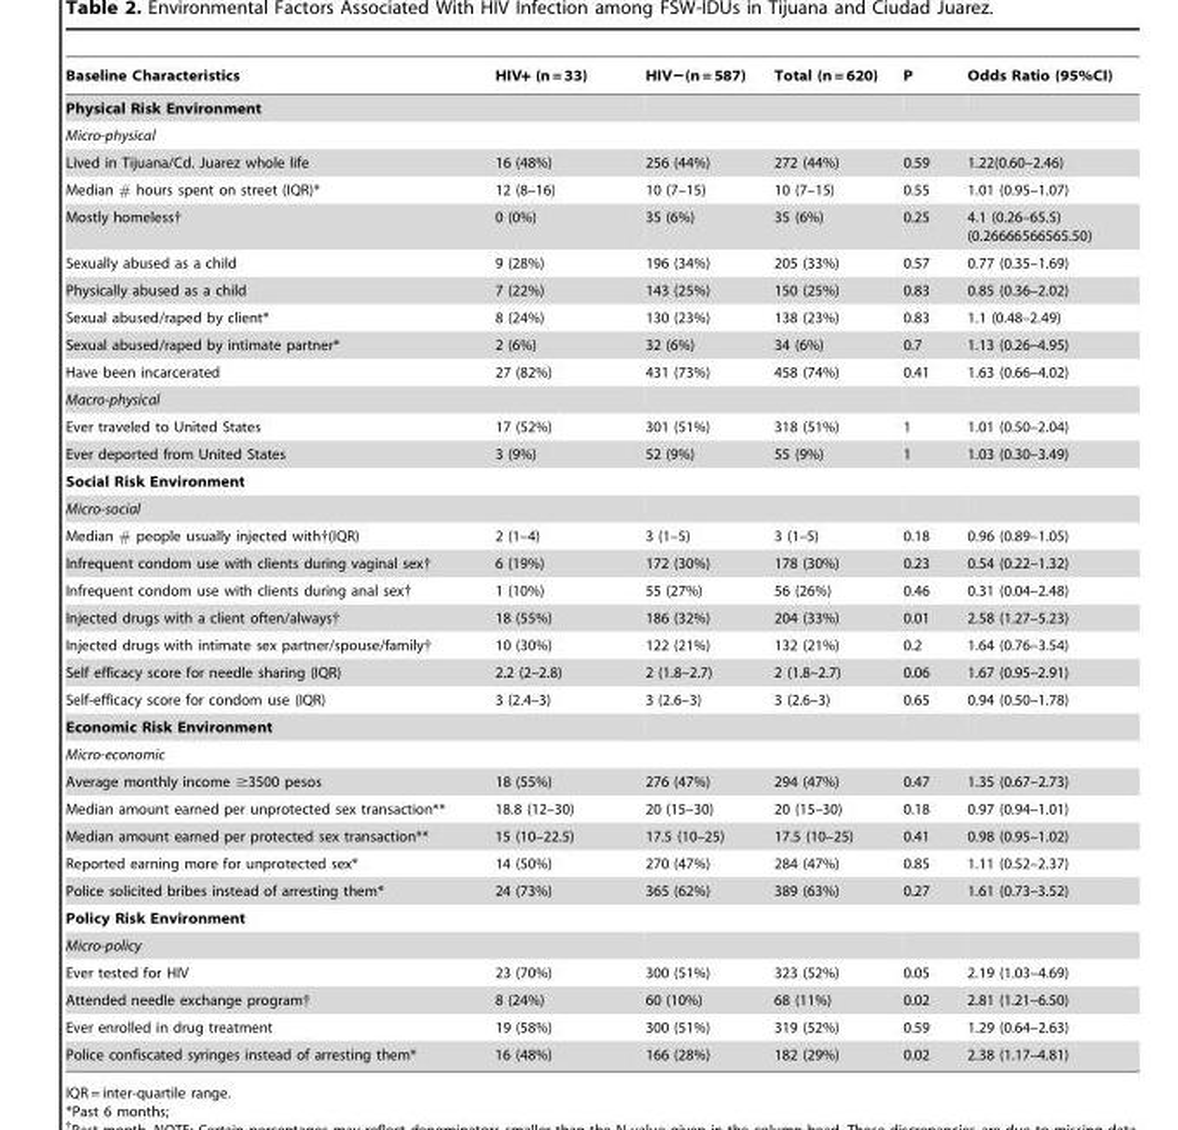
<table><thead><tr><td>Baseline Characteristics</td><td>HIV+ (n = 33)</td><td>HIV−(n = 587)</td><td>Total (n = 620)</td><td>P</td><td>Odds Ratio (95%CI)</td></tr></thead><tbody><tr><td colspan="6">Physical Risk Environment</td></tr><tr><td colspan="6">Micro-physical</td></tr><tr><td>Lived in Tijuana/Cd. Juarez whole life</td><td>16 (48%)</td><td>256 (44%)</td><td>272 (44%)</td><td>0.59</td><td>1.22(0.60–2.46)</td></tr><tr><td>Median # hours spent on street (IQR)*</td><td>12 (8–16)</td><td>10 (7–15)</td><td>10 (7–15)</td><td>0.55</td><td>1.01 (0.95–1.07)</td></tr><tr><td>Mostly homeless†</td><td>0 (0%)</td><td>35 (6%)</td><td>35 (6%)</td><td>0.25</td><td>4.1 (0.26–65.5) (0.26666566565.50)</td></tr><tr><td>Sexually abused as a child</td><td>9 (28%)</td><td>196 (34%)</td><td>205 (33%)</td><td>0.57</td><td>0.77 (0.35–1.69)</td></tr><tr><td>Physically abused as a child</td><td>7 (22%)</td><td>143 (25%)</td><td>150 (25%)</td><td>0.83</td><td>0.85 (0.36–2.02)</td></tr><tr><td>Sexual abused/raped by client*</td><td>8 (24%)</td><td>130 (23%)</td><td>138 (23%)</td><td>0.83</td><td>1.1 (0.48–2.49)</td></tr><tr><td>Sexual abused/raped by intimate partner*</td><td>2 (6%)</td><td>32 (6%)</td><td>34 (6%)</td><td>0.7</td><td>1.13 (0.26–4.95)</td></tr><tr><td>Have been incarcerated</td><td>27 (82%)</td><td>431 (73%)</td><td>458 (74%)</td><td>0.41</td><td>1.63 (0.66–4.02)</td></tr><tr><td colspan="6">Macro-physical</td></tr><tr><td>Ever traveled to United States</td><td>17 (52%)</td><td>301 (51%)</td><td>318 (51%)</td><td>1</td><td>1.01 (0.50–2.04)</td></tr><tr><td>Ever deported from United States</td><td>3 (9%)</td><td>52 (9%)</td><td>55 (9%)</td><td>1</td><td>1.03 (0.30–3.49)</td></tr><tr><td colspan="6">Social Risk Environment</td></tr><tr><td colspan="6">Micro-social</td></tr><tr><td>Median # people usually injected with†(IQR)</td><td>2 (1–4)</td><td>3 (1–5)</td><td>3 (1–5)</td><td>0.18</td><td>0.96 (0.89–1.05)</td></tr><tr><td>Infrequent condom use with clients during vaginal sex†</td><td>6 (19%)</td><td>172 (30%)</td><td>178 (30%)</td><td>0.23</td><td>0.54 (0.22–1.32)</td></tr><tr><td>Infrequent condom use with clients during anal sex†</td><td>1 (10%)</td><td>55 (27%)</td><td>56 (26%)</td><td>0.46</td><td>0.31 (0.04–2.48)</td></tr><tr><td>Injected drugs with a client often/always†</td><td>18 (55%)</td><td>186 (32%)</td><td>204 (33%)</td><td>0.01</td><td>2.58 (1.27–5.23)</td></tr><tr><td>Injected drugs with intimate sex partner/spouse/family†</td><td>10 (30%)</td><td>122 (21%)</td><td>132 (21%)</td><td>0.2</td><td>1.64 (0.76–3.54)</td></tr><tr><td>Self efficacy score for needle sharing (IQR)</td><td>2.2 (2–2.8)</td><td>2 (1.8–2.7)</td><td>2 (1.8–2.7)</td><td>0.06</td><td>1.67 (0.95–2.91)</td></tr><tr><td>Self-efficacy score for condom use (IQR)</td><td>3 (2.4–3)</td><td>3 (2.6–3)</td><td>3 (2.6–3)</td><td>0.65</td><td>0.94 (0.50–1.78)</td></tr><tr><td colspan="6">Economic Risk Environment</td></tr><tr><td colspan="6">Micro-economic</td></tr><tr><td>Average monthly income ≥3500 pesos</td><td>18 (55%)</td><td>276 (47%)</td><td>294 (47%)</td><td>0.47</td><td>1.35 (0.67–2.73)</td></tr><tr><td>Median amount earned per unprotected sex transaction**</td><td>18.8 (12–30)</td><td>20 (15–30)</td><td>20 (15–30)</td><td>0.18</td><td>0.97 (0.94–1.01)</td></tr><tr><td>Median amount earned per protected sex transaction**</td><td>15 (10–22.5)</td><td>17.5 (10–25)</td><td>17.5 (10–25)</td><td>0.41</td><td>0.98 (0.95–1.02)</td></tr><tr><td>Reported earning more for unprotected sex*</td><td>14 (50%)</td><td>270 (47%)</td><td>284 (47%)</td><td>0.85</td><td>1.11 (0.52–2.37)</td></tr><tr><td>Police solicited bribes instead of arresting them*</td><td>24 (73%)</td><td>365 (62%)</td><td>389 (63%)</td><td>0.27</td><td>1.61 (0.73–3.52)</td></tr><tr><td colspan="6">Policy Risk Environment</td></tr><tr><td colspan="6">Micro-policy</td></tr><tr><td>Ever tested for HIV</td><td>23 (70%)</td><td>300 (51%)</td><td>323 (52%)</td><td>0.05</td><td>2.19 (1.03–4.69)</td></tr><tr><td>Attended needle exchange program†</td><td>8 (24%)</td><td>60 (10%)</td><td>68 (11%)</td><td>0.02</td><td>2.81 (1.21–6.50)</td></tr><tr><td>Ever enrolled in drug treatment</td><td>19 (58%)</td><td>300 (51%)</td><td>319 (52%)</td><td>0.59</td><td>1.29 (0.64–2.63)</td></tr><tr><td>Police confiscated syringes instead of arresting them*</td><td>16 (48%)</td><td>166 (28%)</td><td>182 (29%)</td><td>0.02</td><td>2.38 (1.17–4.81)</td></tr></tbody></table>